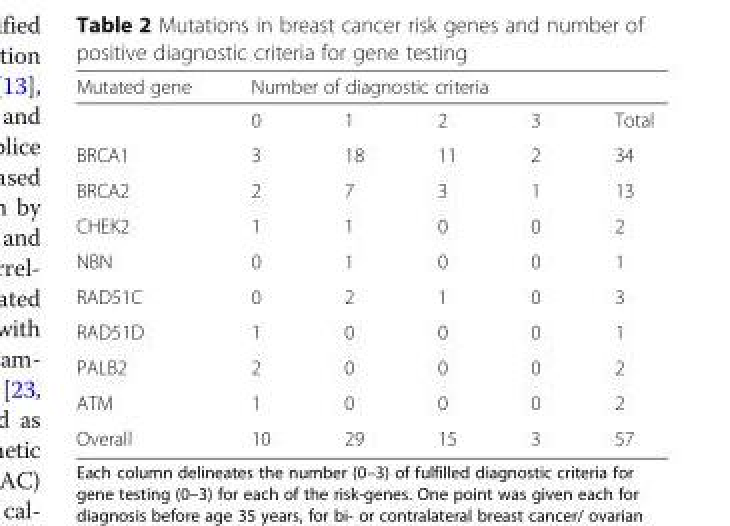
<table><thead><tr><td rowspan="2">Mutated gene</td><td colspan="5">Number of diagnostic criteria</td></tr><tr><td>0</td><td>1</td><td>2</td><td>3</td><td>Total</td></tr></thead><tbody><tr><td>BRCA1</td><td>3</td><td>18</td><td>11</td><td>2</td><td>34</td></tr><tr><td>BRCA2</td><td>2</td><td>7</td><td>3</td><td>1</td><td>13</td></tr><tr><td>CHEK2</td><td>1</td><td>1</td><td>0</td><td>0</td><td>2</td></tr><tr><td>NBN</td><td>0</td><td>1</td><td>0</td><td>0</td><td>1</td></tr><tr><td>RAD51C</td><td>0</td><td>2</td><td>1</td><td>0</td><td>3</td></tr><tr><td>RAD51D</td><td>1</td><td>0</td><td>0</td><td>0</td><td>1</td></tr><tr><td>PALB2</td><td>2</td><td>0</td><td>0</td><td>0</td><td>2</td></tr><tr><td>ATM</td><td>1</td><td>0</td><td>0</td><td>0</td><td>2</td></tr><tr><td>Overall</td><td>10</td><td>29</td><td>15</td><td>3</td><td>57</td></tr></tbody></table>